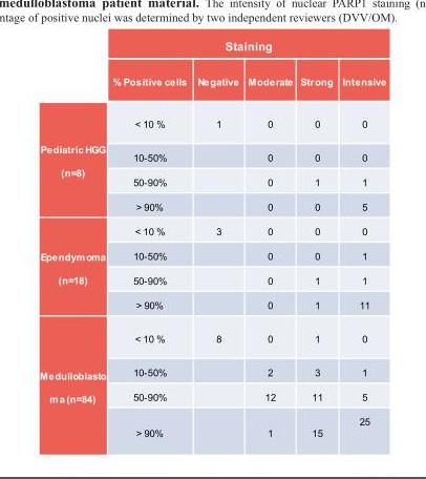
<table><thead><tr><td rowspan="2"></td><td colspan="5">Staining</td></tr><tr><td>% Positive cells</td><td>Negative</td><td>Moderate</td><td>Strong</td><td>Intensive</td></tr></thead><tbody><tr><td rowspan="4">Pediatric HGG (n=8)</td><td>&lt; 10 %</td><td>1</td><td>0</td><td>0</td><td>0</td></tr><tr><td>10-50%</td><td></td><td>0</td><td>0</td><td>0</td></tr><tr><td>50-90%</td><td></td><td>0</td><td>1</td><td>1</td></tr><tr><td>&gt; 90%</td><td></td><td>0</td><td>0</td><td>5</td></tr><tr><td rowspan="4">Ependymoma (n=18)</td><td>&lt; 10 %</td><td>3</td><td>0</td><td>0</td><td>0</td></tr><tr><td>10-50%</td><td></td><td>0</td><td>0</td><td>1</td></tr><tr><td>50-90%</td><td></td><td>0</td><td>1</td><td>1</td></tr><tr><td>&gt; 90%</td><td></td><td>0</td><td>1</td><td>11</td></tr><tr><td rowspan="4">Medulloblasto ma (n=84)</td><td>&lt; 10 %</td><td>8</td><td>0</td><td>1</td><td>0</td></tr><tr><td>10-50%</td><td></td><td>2</td><td>3</td><td>1</td></tr><tr><td>50-90%</td><td></td><td>12</td><td>11</td><td>5</td></tr><tr><td>&gt; 90%</td><td></td><td>1</td><td>15</td><td>25</td></tr></tbody></table>